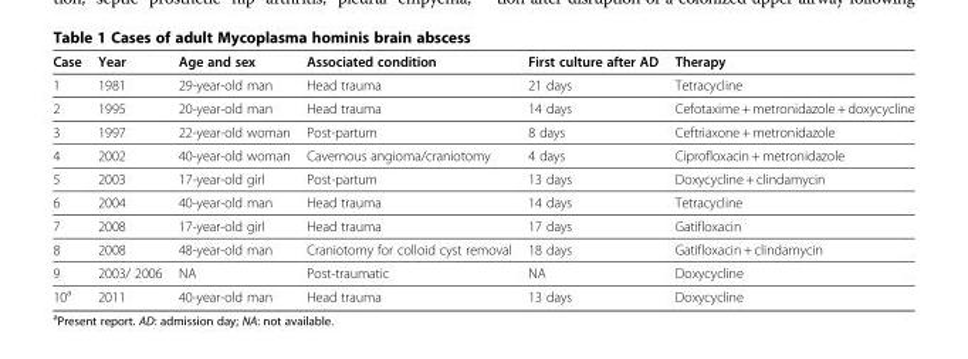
<table><thead><tr><td>Case</td><td>Year</td><td>Age and sex</td><td>Associated condition</td><td>First culture after AD</td><td>Therapy</td></tr></thead><tbody><tr><td>1</td><td>1981</td><td>29-year-old man</td><td>Head trauma</td><td>21 days</td><td>Tetracycline</td></tr><tr><td>2</td><td>1995</td><td>20-year-old man</td><td>Head trauma</td><td>14 days</td><td>Cefotaxime + metronidazole + doxycycline</td></tr><tr><td>3</td><td>1997</td><td>22-year-old woman</td><td>Post-partum</td><td>8 days</td><td>Ceftriaxone + metronidazole</td></tr><tr><td>4</td><td>2002</td><td>40-year-old woman</td><td>Cavernous angioma/craniotomy</td><td>4 days</td><td>Ciprofloxacin + metronidazole</td></tr><tr><td>5</td><td>2003</td><td>17-year-old girl</td><td>Post-partum</td><td>13 days</td><td>Doxycycline + clindamycin</td></tr><tr><td>6</td><td>2004</td><td>40-year-old man</td><td>Head trauma</td><td>14 days</td><td>Tetracycline</td></tr><tr><td>7</td><td>2008</td><td>17-year-old girl</td><td>Head trauma</td><td>17 days</td><td>Gatifloxacin</td></tr><tr><td>8</td><td>2008</td><td>48-year-old man</td><td>Craniotomy for colloid cyst removal</td><td>18 days</td><td>Gatifloxacin + clindamycin</td></tr><tr><td>9</td><td>2003/ 2006</td><td>NA</td><td>Post-traumatic</td><td>NA</td><td>Doxycycline</td></tr><tr><td>10<sup>a</sup></td><td>2011</td><td>40-year-old man</td><td>Head trauma</td><td>13 days</td><td>Doxycycline</td></tr></tbody></table>